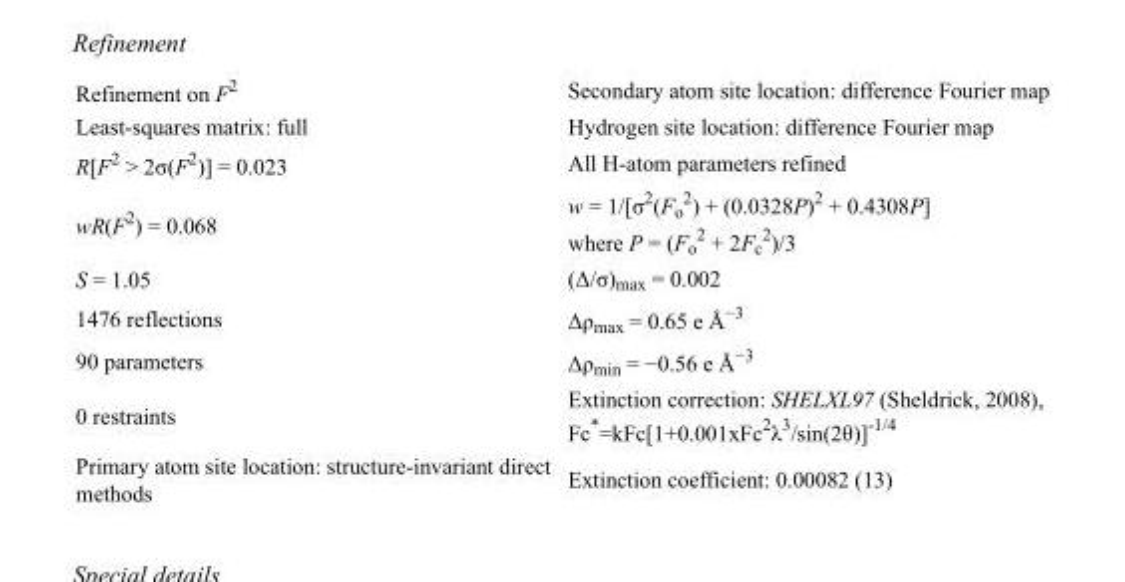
<table><tbody><tr><td>Refinement on F<sup>2</sup></td><td>Secondary atom site location: difference Fourier map</td></tr><tr><td>Least-squares matrix: full</td><td>Hydrogen site location: difference Fourier map</td></tr><tr><td>R[F<sup>2</sup> &gt; 2σ(F<sup>2</sup>)] = 0.023</td><td>All H-atom parameters refined</td></tr><tr><td>wR(F<sup>2</sup>) = 0.068</td><td>w = 1/[σ<sup>2</sup>(F<sub>o</sub> <sup>2</sup>) + (0.0328P)<sup>2</sup> + 0.4308P] where P = (F<sub>o</sub> <sup>2</sup> + 2F<sub>c</sub> <sup>2</sup>)/3</td></tr><tr><td>S = 1.05</td><td>(Δ/σ)<sub>max</sub> = 0.002</td></tr><tr><td>1476 reflections</td><td>Δρ<sub>max</sub> = 0.65 e Å<sup>−3</sup></td></tr><tr><td>90 parameters</td><td>Δρ<sub>min</sub> = −0.56 e Å<sup>−3</sup></td></tr><tr><td>0 restraints</td><td>Extinction correction: SHELXL97 (Sheldrick, 2008), Fc*=kFc[1+0.001xFc<sup>2</sup>λ<sup>3</sup>/sin(2θ)]<sup>-1/4</sup></td></tr><tr><td>Primary atom site location: structure-invariant direct methods</td><td>Extinction coefficient: 0.00082 (13)</td></tr></tbody></table>